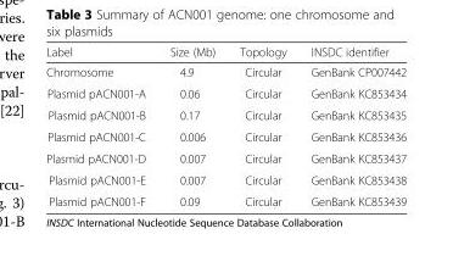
<table><thead><tr><td>Label</td><td>Size (Mb)</td><td>Topology</td><td>INSDC identifier</td></tr></thead><tbody><tr><td>Chromosome</td><td>4.9</td><td>Circular</td><td>GenBank CP007442</td></tr><tr><td>Plasmid pACN001-A</td><td>0.06</td><td>Circular</td><td>GenBank KC853434</td></tr><tr><td>Plasmid pACN001-B</td><td>0.17</td><td>Circular</td><td>GenBank KC853435</td></tr><tr><td>Plasmid pACN001-C</td><td>0.006</td><td>Circular</td><td>GenBank KC853436</td></tr><tr><td>Plasmid pACN001-D</td><td>0.007</td><td>Circular</td><td>GenBank KC853437</td></tr><tr><td>Plasmid pACN001-E</td><td>0.007</td><td>Circular</td><td>GenBank KC853438</td></tr><tr><td>Plasmid pACN001-F</td><td>0.09</td><td>Circular</td><td>GenBank KC853439</td></tr></tbody></table>